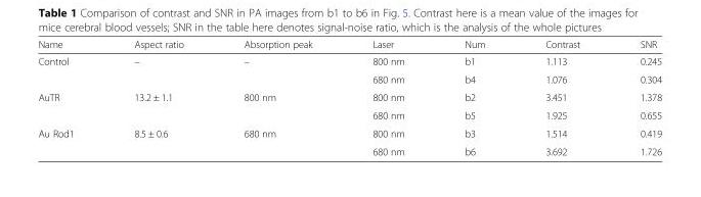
<table><thead><tr><td>Name</td><td>Aspect ratio</td><td>Absorption peak</td><td>Laser</td><td>Num</td><td>Contrast</td><td>SNR</td></tr></thead><tbody><tr><td rowspan="2">Control</td><td rowspan="2">–</td><td rowspan="2">–</td><td>800 nm</td><td>b1</td><td>1.113</td><td>0.245</td></tr><tr><td>680 nm</td><td>b4</td><td>1.076</td><td>0.304</td></tr><tr><td rowspan="2">AuTR</td><td rowspan="2">13.2 ± 1.1</td><td rowspan="2">800 nm</td><td>800 nm</td><td>b2</td><td>3.451</td><td>1.378</td></tr><tr><td>680 nm</td><td>b5</td><td>1.925</td><td>0.655</td></tr><tr><td rowspan="2">Au Rod1</td><td rowspan="2">8.5 ± 0.6</td><td rowspan="2">680 nm</td><td>800 nm</td><td>b3</td><td>1.514</td><td>0.419</td></tr><tr><td>680 nm</td><td>b6</td><td>3.692</td><td>1.726</td></tr></tbody></table>